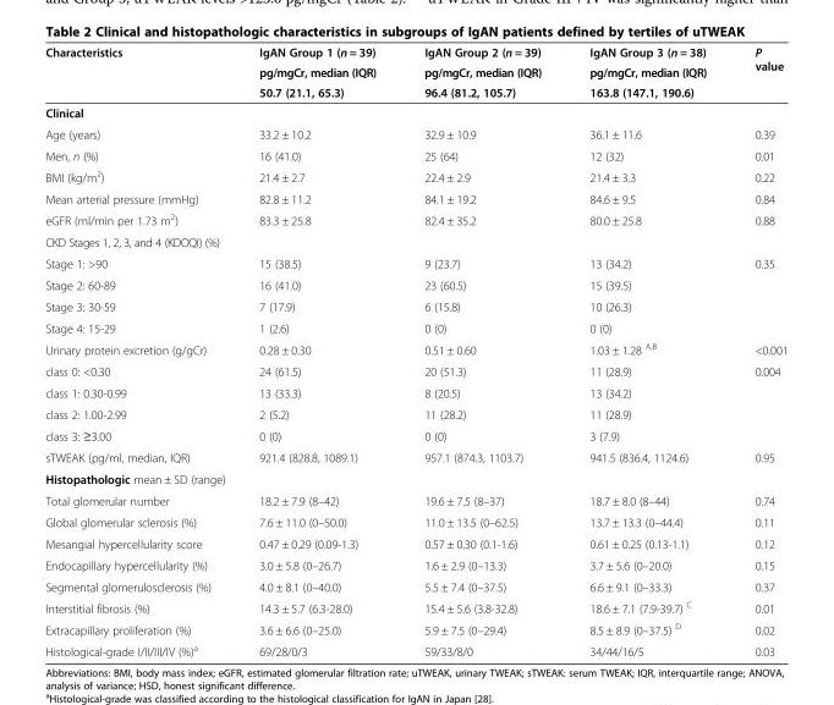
<table><thead><tr><td rowspan="3">Characteristics</td><td rowspan="3">IgAN Group 1 (n = 39) pg/mgCr, median (IQR) 50.7 (21.1, 65.3)</td><td rowspan="3">IgAN Group 2 (n = 39) pg/mgCr, median (IQR) 96.4 (81.2, 105.7)</td><td rowspan="3">IgAN Group 3 (n = 38) pg/mgCr, median (IQR) 163.8 (147.1, 190.6)</td><td rowspan="3">P value</td></tr><tr></tr><tr></tr></thead><tbody><tr><td colspan="5">Clinical</td></tr><tr><td>Age (years)</td><td>33.2 ± 10.2</td><td>32.9 ± 10.9</td><td>36.1 ± 11.6</td><td>0.39</td></tr><tr><td>Men, n (%)</td><td>16 (41.0)</td><td>25 (64)</td><td>12 (32)</td><td>0.01</td></tr><tr><td>BMI (kg/m<sup>2</sup>)</td><td>21.4 ± 2.7</td><td>22.4 ± 2.9</td><td>21.4 ± 3.3</td><td>0.22</td></tr><tr><td>Mean arterial pressure (mmHg)</td><td>82.8 ± 11.2</td><td>84.1 ± 19.2</td><td>84.6 ± 9.5</td><td>0.84</td></tr><tr><td>eGFR (ml/min per 1.73 m<sup>2</sup>)</td><td>83.3 ± 25.8</td><td>82.4 ± 35.2</td><td>80.0 ± 25.8</td><td>0.88</td></tr><tr><td colspan="5">CKD Stages 1, 2, 3, and 4 (KDOQI) (%)</td></tr><tr><td>Stage 1: &gt;90</td><td>15 (38.5)</td><td>9 (23.7)</td><td>13 (34.2)</td><td rowspan="4">0.35</td></tr><tr><td>Stage 2: 60-89</td><td>16 (41.0)</td><td>23 (60.5)</td><td>15 (39.5)</td></tr><tr><td>Stage 3: 30-59</td><td>7 (17.9)</td><td>6 (15.8)</td><td>10 (26.3)</td></tr><tr><td>Stage 4: 15-29</td><td>1 (2.6)</td><td>0 (0)</td><td>0 (0)</td></tr><tr><td>Urinary protein excretion (g/gCr)</td><td>0.28 ± 0.30</td><td>0.51 ± 0.60</td><td>1.03 ± 1.28 <sup>A,B</sup></td><td>&lt;0.001</td></tr><tr><td>class 0: &lt;0.30</td><td>24 (61.5)</td><td>20 (51.3)</td><td>11 (28.9)</td><td rowspan="4">0.004</td></tr><tr><td>class 1: 0.30-0.99</td><td>13 (33.3)</td><td>8 (20.5)</td><td>13 (34.2)</td></tr><tr><td>class 2: 1.00-2.99</td><td>2 (5.2)</td><td>11 (28.2)</td><td>11 (28.9)</td></tr><tr><td>class 3: ≥3.00</td><td>0 (0)</td><td>0 (0)</td><td>3 (7.9)</td></tr><tr><td>sTWEAK (pg/ml, median, IQR)</td><td>921.4 (828.8, 1089.1)</td><td>957.1 (874.3, 1103.7)</td><td>941.5 (836.4, 1124.6)</td><td>0.95</td></tr><tr><td colspan="5">Histopathologic mean ± SD (range)</td></tr><tr><td>Total glomerular number</td><td>18.2 ± 7.9 (8–42)</td><td>19.6 ± 7.5 (8–37)</td><td>18.7 ± 8.0 (8–44)</td><td>0.74</td></tr><tr><td>Global glomerular sclerosis (%)</td><td>7.6 ± 11.0 (0–50.0)</td><td>11.0 ± 13.5 (0–62.5)</td><td>13.7 ± 13.3 (0–44.4)</td><td>0.11</td></tr><tr><td>Mesangial hypercellularity score</td><td>0.47 ± 0.29 (0.09-1.3)</td><td>0.57 ± 0.30 (0.1-1.6)</td><td>0.61 ± 0.25 (0.13-1.1)</td><td>0.12</td></tr><tr><td>Endocapillary hypercellularity (%)</td><td>3.0 ± 5.8 (0–26.7)</td><td>1.6 ± 2.9 (0–13.3)</td><td>3.7 ± 5.6 (0–20.0)</td><td>0.15</td></tr><tr><td>Segmental glomerulosclerosis (%)</td><td>4.0 ± 8.1 (0–40.0)</td><td>5.5 ± 7.4 (0–37.5)</td><td>6.6 ± 9.1 (0–33.3)</td><td>0.37</td></tr><tr><td>Interstitial fibrosis (%)</td><td>14.3 ± 5.7 (6.3-28.0)</td><td>15.4 ± 5.6 (3.8-32.8)</td><td>18.6 ± 7.1 (7.9-39.7) <sup>C</sup></td><td>0.01</td></tr><tr><td>Extracapillary proliferation (%)</td><td>3.6 ± 6.6 (0–25.0)</td><td>5.9 ± 7.5 (0–29.4)</td><td>8.5 ± 8.9 (0–37.5) <sup>D</sup></td><td>0.02</td></tr><tr><td>Histological-grade I/II/III/IV (%)<sup>a</sup></td><td>69/28/0/3</td><td>59/33/8/0</td><td>34/44/16/5</td><td>0.03</td></tr></tbody></table>